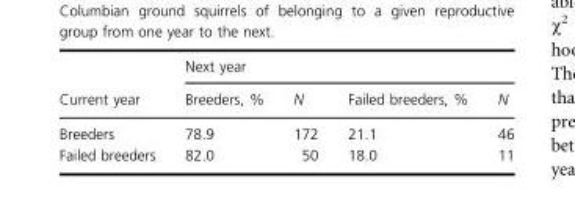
<table><thead><tr><td rowspan="2">Current year</td><td colspan="4">Next year</td></tr><tr><td>Breeders, %</td><td>N</td><td>Failed breeders, %</td><td>N</td></tr></thead><tbody><tr><td>Breeders</td><td>78.9</td><td>172</td><td>21.1</td><td>46</td></tr><tr><td>Failed breeders</td><td>82.0</td><td>50</td><td>18.0</td><td>11</td></tr></tbody></table>